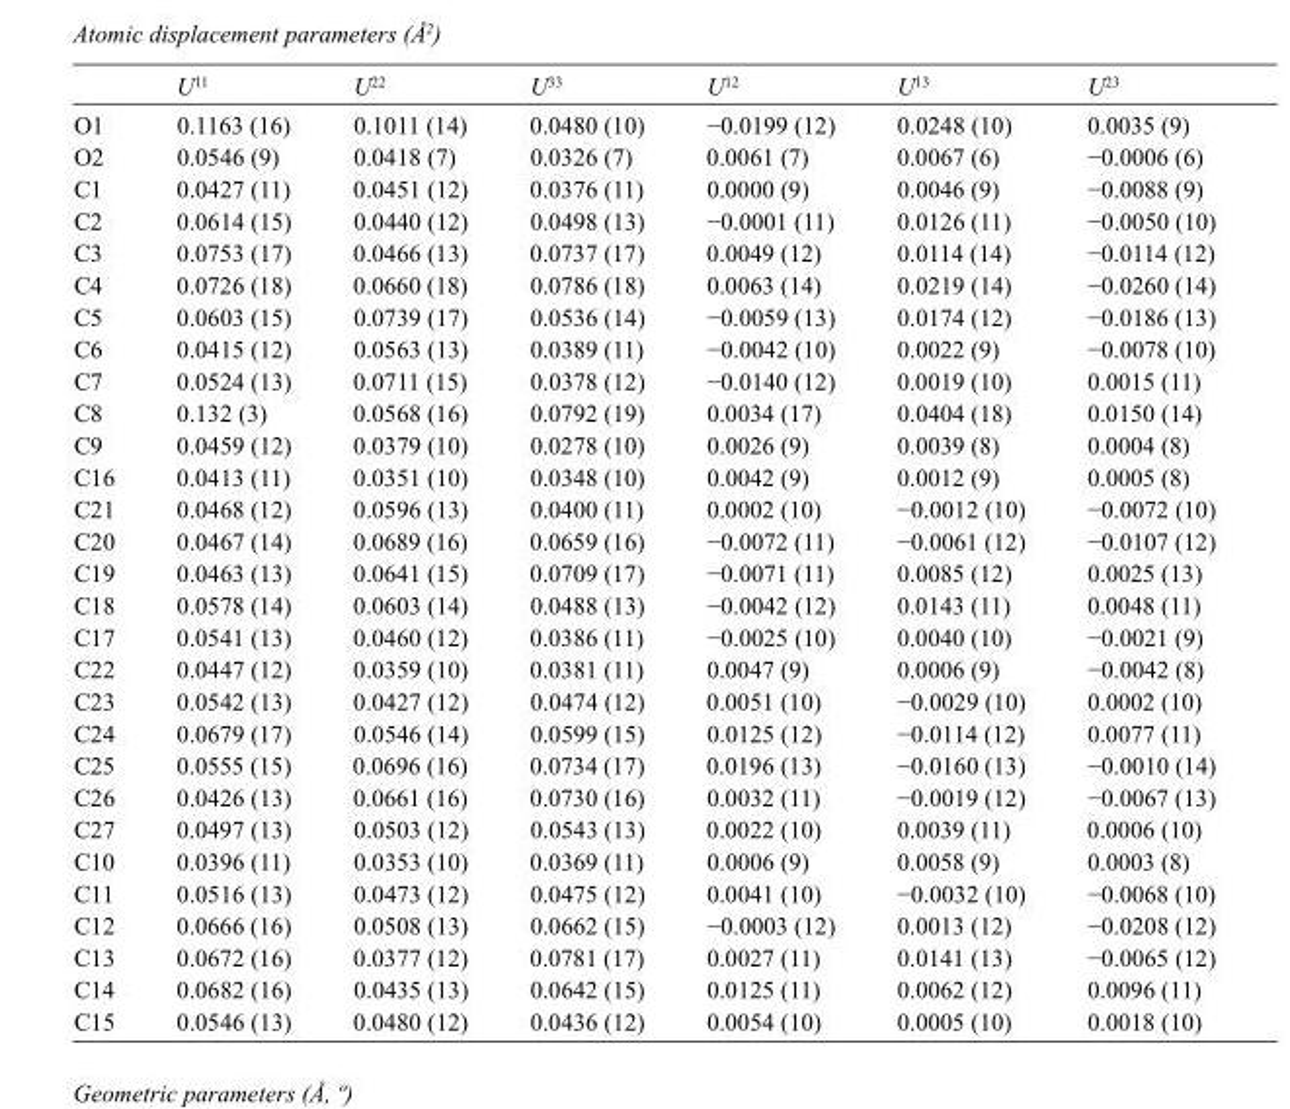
<table><thead><tr><td></td><td>U<sup>11</sup></td><td>U<sup>22</sup></td><td>U<sup>33</sup></td><td>U<sup>12</sup></td><td>U<sup>13</sup></td><td>U<sup>23</sup></td></tr></thead><tbody><tr><td>O1</td><td>0.1163 (16)</td><td>0.1011 (14)</td><td>0.0480 (10)</td><td>−0.0199 (12)</td><td>0.0248 (10)</td><td>0.0035 (9)</td></tr><tr><td>O2</td><td>0.0546 (9)</td><td>0.0418 (7)</td><td>0.0326 (7)</td><td>0.0061 (7)</td><td>0.0067 (6)</td><td>−0.0006 (6)</td></tr><tr><td>C1</td><td>0.0427 (11)</td><td>0.0451 (12)</td><td>0.0376 (11)</td><td>0.0000 (9)</td><td>0.0046 (9)</td><td>−0.0088 (9)</td></tr><tr><td>C2</td><td>0.0614 (15)</td><td>0.0440 (12)</td><td>0.0498 (13)</td><td>−0.0001 (11)</td><td>0.0126 (11)</td><td>−0.0050 (10)</td></tr><tr><td>C3</td><td>0.0753 (17)</td><td>0.0466 (13)</td><td>0.0737 (17)</td><td>0.0049 (12)</td><td>0.0114 (14)</td><td>−0.0114 (12)</td></tr><tr><td>C4</td><td>0.0726 (18)</td><td>0.0660 (18)</td><td>0.0786 (18)</td><td>0.0063 (14)</td><td>0.0219 (14)</td><td>−0.0260 (14)</td></tr><tr><td>C5</td><td>0.0603 (15)</td><td>0.0739 (17)</td><td>0.0536 (14)</td><td>−0.0059 (13)</td><td>0.0174 (12)</td><td>−0.0186 (13)</td></tr><tr><td>C6</td><td>0.0415 (12)</td><td>0.0563 (13)</td><td>0.0389 (11)</td><td>−0.0042 (10)</td><td>0.0022 (9)</td><td>−0.0078 (10)</td></tr><tr><td>C7</td><td>0.0524 (13)</td><td>0.0711 (15)</td><td>0.0378 (12)</td><td>−0.0140 (12)</td><td>0.0019 (10)</td><td>0.0015 (11)</td></tr><tr><td>C8</td><td>0.132 (3)</td><td>0.0568 (16)</td><td>0.0792 (19)</td><td>0.0034 (17)</td><td>0.0404 (18)</td><td>0.0150 (14)</td></tr><tr><td>C9</td><td>0.0459 (12)</td><td>0.0379 (10)</td><td>0.0278 (10)</td><td>0.0026 (9)</td><td>0.0039 (8)</td><td>0.0004 (8)</td></tr><tr><td>C16</td><td>0.0413 (11)</td><td>0.0351 (10)</td><td>0.0348 (10)</td><td>0.0042 (9)</td><td>0.0012 (9)</td><td>0.0005 (8)</td></tr><tr><td>C21</td><td>0.0468 (12)</td><td>0.0596 (13)</td><td>0.0400 (11)</td><td>0.0002 (10)</td><td>−0.0012 (10)</td><td>−0.0072 (10)</td></tr><tr><td>C20</td><td>0.0467 (14)</td><td>0.0689 (16)</td><td>0.0659 (16)</td><td>−0.0072 (11)</td><td>−0.0061 (12)</td><td>−0.0107 (12)</td></tr><tr><td>C19</td><td>0.0463 (13)</td><td>0.0641 (15)</td><td>0.0709 (17)</td><td>−0.0071 (11)</td><td>0.0085 (12)</td><td>0.0025 (13)</td></tr><tr><td>C18</td><td>0.0578 (14)</td><td>0.0603 (14)</td><td>0.0488 (13)</td><td>−0.0042 (12)</td><td>0.0143 (11)</td><td>0.0048 (11)</td></tr><tr><td>C17</td><td>0.0541 (13)</td><td>0.0460 (12)</td><td>0.0386 (11)</td><td>−0.0025 (10)</td><td>0.0040 (10)</td><td>−0.0021 (9)</td></tr><tr><td>C22</td><td>0.0447 (12)</td><td>0.0359 (10)</td><td>0.0381 (11)</td><td>0.0047 (9)</td><td>0.0006 (9)</td><td>−0.0042 (8)</td></tr><tr><td>C23</td><td>0.0542 (13)</td><td>0.0427 (12)</td><td>0.0474 (12)</td><td>0.0051 (10)</td><td>−0.0029 (10)</td><td>0.0002 (10)</td></tr><tr><td>C24</td><td>0.0679 (17)</td><td>0.0546 (14)</td><td>0.0599 (15)</td><td>0.0125 (12)</td><td>−0.0114 (12)</td><td>0.0077 (11)</td></tr><tr><td>C25</td><td>0.0555 (15)</td><td>0.0696 (16)</td><td>0.0734 (17)</td><td>0.0196 (13)</td><td>−0.0160 (13)</td><td>−0.0010 (14)</td></tr><tr><td>C26</td><td>0.0426 (13)</td><td>0.0661 (16)</td><td>0.0730 (16)</td><td>0.0032 (11)</td><td>−0.0019 (12)</td><td>−0.0067 (13)</td></tr><tr><td>C27</td><td>0.0497 (13)</td><td>0.0503 (12)</td><td>0.0543 (13)</td><td>0.0022 (10)</td><td>0.0039 (11)</td><td>0.0006 (10)</td></tr><tr><td>C10</td><td>0.0396 (11)</td><td>0.0353 (10)</td><td>0.0369 (11)</td><td>0.0006 (9)</td><td>0.0058 (9)</td><td>0.0003 (8)</td></tr><tr><td>C11</td><td>0.0516 (13)</td><td>0.0473 (12)</td><td>0.0475 (12)</td><td>0.0041 (10)</td><td>−0.0032 (10)</td><td>−0.0068 (10)</td></tr><tr><td>C12</td><td>0.0666 (16)</td><td>0.0508 (13)</td><td>0.0662 (15)</td><td>−0.0003 (12)</td><td>0.0013 (12)</td><td>−0.0208 (12)</td></tr><tr><td>C13</td><td>0.0672 (16)</td><td>0.0377 (12)</td><td>0.0781 (17)</td><td>0.0027 (11)</td><td>0.0141 (13)</td><td>−0.0065 (12)</td></tr><tr><td>C14</td><td>0.0682 (16)</td><td>0.0435 (13)</td><td>0.0642 (15)</td><td>0.0125 (11)</td><td>0.0062 (12)</td><td>0.0096 (11)</td></tr><tr><td>C15</td><td>0.0546 (13)</td><td>0.0480 (12)</td><td>0.0436 (12)</td><td>0.0054 (10)</td><td>0.0005 (10)</td><td>0.0018 (10)</td></tr></tbody></table>